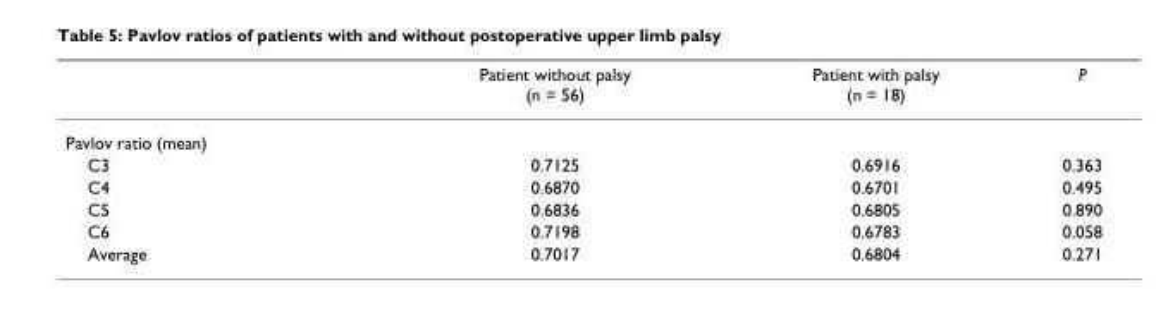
<table><thead><tr><td></td><td>Patient without palsy (n = 56)</td><td>Patient with palsy (n = 18)</td><td>P</td></tr></thead><tbody><tr><td colspan="4">Pavlov ratio (mean)</td></tr><tr><td>C3</td><td>0.7125</td><td>0.6916</td><td>0.363</td></tr><tr><td>C4</td><td>0.6870</td><td>0.6701</td><td>0.495</td></tr><tr><td>C5</td><td>0.6836</td><td>0.6805</td><td>0.890</td></tr><tr><td>C6</td><td>0.7198</td><td>0.6783</td><td>0.058</td></tr><tr><td>Average</td><td>0.7017</td><td>0.6804</td><td>0.271</td></tr></tbody></table>